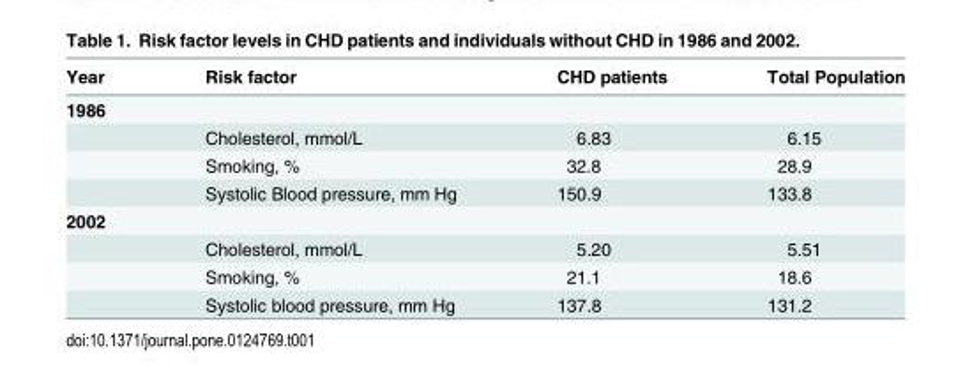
<table><thead><tr><td>Year</td><td>Risk factor</td><td>CHD patients</td><td>Total Population</td></tr></thead><tbody><tr><td colspan="4">1986</td></tr><tr><td></td><td>Cholesterol, mmol/L</td><td>6.83</td><td>6.15</td></tr><tr><td></td><td>Smoking, %</td><td>32.8</td><td>28.9</td></tr><tr><td></td><td>Systolic Blood pressure, mm Hg</td><td>150.9</td><td>133.8</td></tr><tr><td colspan="4">2002</td></tr><tr><td></td><td>Cholesterol, mmol/L</td><td>5.20</td><td>5.51</td></tr><tr><td></td><td>Smoking, %</td><td>21.1</td><td>18.6</td></tr><tr><td></td><td>Systolic blood pressure, mm Hg</td><td>137.8</td><td>131.2</td></tr></tbody></table>